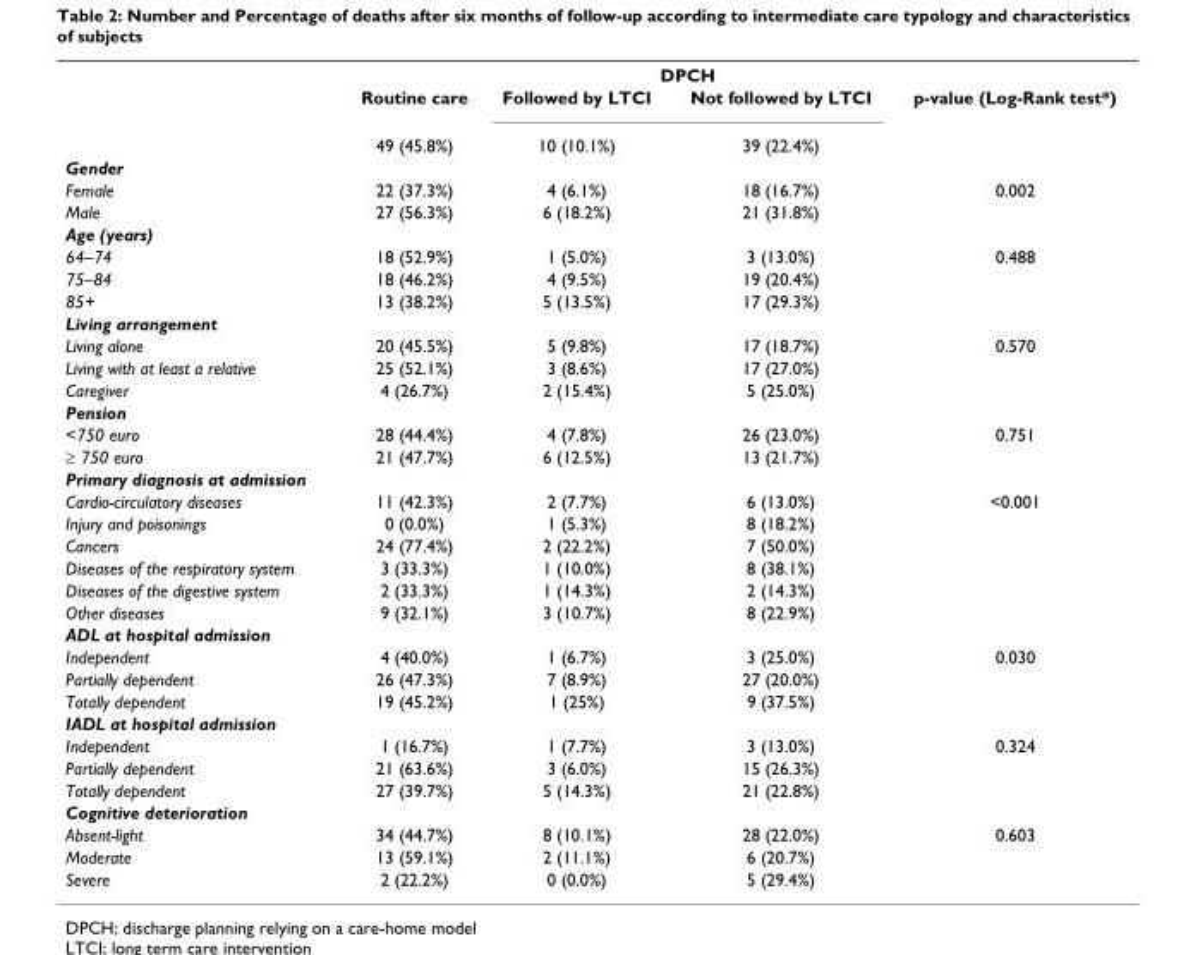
<table><thead><tr><td rowspan="2"></td><td rowspan="2">Routine care</td><td colspan="2">DPCH</td><td rowspan="2">p-value (Log-Rank test*)</td></tr><tr><td>Followed by LTCI</td><td>Not followed by LTCI</td></tr></thead><tbody><tr><td></td><td>49 (45.8%)</td><td>10 (10.1%)</td><td>39 (22.4%)</td><td></td></tr><tr><td colspan="5">Gender</td></tr><tr><td>Female</td><td>22 (37.3%)</td><td>4 (6.1%)</td><td>18 (16.7%)</td><td>0.002</td></tr><tr><td>Male</td><td>27 (56.3%)</td><td>6 (18.2%)</td><td>21 (31.8%)</td><td></td></tr><tr><td colspan="5">Age (years)</td></tr><tr><td>64–74</td><td>18 (52.9%)</td><td>1 (5.0%)</td><td>3 (13.0%)</td><td>0.488</td></tr><tr><td>75–84</td><td>18 (46.2%)</td><td>4 (9.5%)</td><td>19 (20.4%)</td><td></td></tr><tr><td>85+</td><td>13 (38.2%)</td><td>5 (13.5%)</td><td>17 (29.3%)</td><td></td></tr><tr><td colspan="5">Living arrangement</td></tr><tr><td>Living alone</td><td>20 (45.5%)</td><td>5 (9.8%)</td><td>17 (18.7%)</td><td>0.570</td></tr><tr><td>Living with at least a relative</td><td>25 (52.1%)</td><td>3 (8.6%)</td><td>17 (27.0%)</td><td></td></tr><tr><td>Caregiver</td><td>4 (26.7%)</td><td>2 (15.4%)</td><td>5 (25.0%)</td><td></td></tr><tr><td colspan="5">Pension</td></tr><tr><td>&lt;750 euro</td><td>28 (44.4%)</td><td>4 (7.8%)</td><td>26 (23.0%)</td><td>0.751</td></tr><tr><td>≥ 750 euro</td><td>21 (47.7%)</td><td>6 (12.5%)</td><td>13 (21.7%)</td><td></td></tr><tr><td colspan="5">Primary diagnosis at admission</td></tr><tr><td>Cardio-circulatory diseases</td><td>11 (42.3%)</td><td>2 (7.7%)</td><td>6 (13.0%)</td><td>&lt;0.001</td></tr><tr><td>Injury and poisonings</td><td>0 (0.0%)</td><td>1 (5.3%)</td><td>8 (18.2%)</td><td></td></tr><tr><td>Cancers</td><td>24 (77.4%)</td><td>2 (22.2%)</td><td>7 (50.0%)</td><td></td></tr><tr><td>Diseases of the respiratory system</td><td>3 (33.3%)</td><td>1 (10.0%)</td><td>8 (38.1%)</td><td></td></tr><tr><td>Diseases of the digestive system</td><td>2 (33.3%)</td><td>1 (14.3%)</td><td>2 (14.3%)</td><td></td></tr><tr><td>Other diseases</td><td>9 (32.1%)</td><td>3 (10.7%)</td><td>8 (22.9%)</td><td></td></tr><tr><td colspan="5">ADL at hospital admission</td></tr><tr><td>Independent</td><td>4 (40.0%)</td><td>1 (6.7%)</td><td>3 (25.0%)</td><td>0.030</td></tr><tr><td>Partially dependent</td><td>26 (47.3%)</td><td>7 (8.9%)</td><td>27 (20.0%)</td><td></td></tr><tr><td>Totally dependent</td><td>19 (45.2%)</td><td>1 (25%)</td><td>9 (37.5%)</td><td></td></tr><tr><td colspan="5">IADL at hospital admission</td></tr><tr><td>Independent</td><td>1 (16.7%)</td><td>1 (7.7%)</td><td>3 (13.0%)</td><td>0.324</td></tr><tr><td>Partially dependent</td><td>21 (63.6%)</td><td>3 (6.0%)</td><td>15 (26.3%)</td><td></td></tr><tr><td>Totally dependent</td><td>27 (39.7%)</td><td>5 (14.3%)</td><td>21 (22.8%)</td><td></td></tr><tr><td colspan="5">Cognitive deterioration</td></tr><tr><td>Absent-light</td><td>34 (44.7%)</td><td>8 (10.1%)</td><td>28 (22.0%)</td><td>0.603</td></tr><tr><td>Moderate</td><td>13 (59.1%)</td><td>2 (11.1%)</td><td>6 (20.7%)</td><td></td></tr><tr><td>Severe</td><td>2 (22.2%)</td><td>0 (0.0%)</td><td>5 (29.4%)</td><td></td></tr></tbody></table>